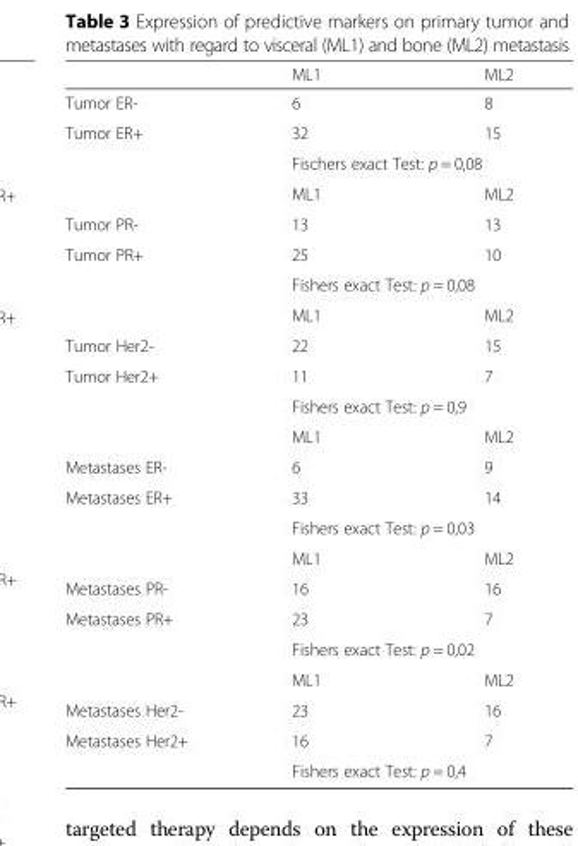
<table><thead><tr><td></td><td>ML1</td><td>ML2</td></tr></thead><tbody><tr><td>Tumor ER-</td><td>6</td><td>8</td></tr><tr><td rowspan="3">Tumor ER+</td><td>32</td><td>15</td></tr><tr><td colspan="2">Fischers exact Test: p = 0,08</td></tr><tr><td>ML1</td><td>ML2</td></tr><tr><td>Tumor PR-</td><td>13</td><td>13</td></tr><tr><td rowspan="3">Tumor PR+</td><td>25</td><td>10</td></tr><tr><td colspan="2">Fishers exact Test: p = 0,08</td></tr><tr><td>ML1</td><td>ML2</td></tr><tr><td>Tumor Her2-</td><td>22</td><td>15</td></tr><tr><td rowspan="3">Tumor Her2+</td><td>11</td><td>7</td></tr><tr><td colspan="2">Fishers exact Test: p = 0,9</td></tr><tr><td>ML1</td><td>ML2</td></tr><tr><td>Metastases ER-</td><td>6</td><td>9</td></tr><tr><td rowspan="3">Metastases ER+</td><td>33</td><td>14</td></tr><tr><td colspan="2">Fishers exact Test: p = 0,03</td></tr><tr><td>ML1</td><td>ML2</td></tr><tr><td>Metastases PR-</td><td>16</td><td>16</td></tr><tr><td rowspan="3">Metastases PR+</td><td>23</td><td>7</td></tr><tr><td colspan="2">Fishers exact Test: p = 0,02</td></tr><tr><td>ML1</td><td>ML2</td></tr><tr><td>Metastases Her2-</td><td>23</td><td>16</td></tr><tr><td rowspan="2">Metastases Her2+</td><td>16</td><td>7</td></tr><tr><td colspan="2">Fishers exact Test: p = 0,4</td></tr></tbody></table>